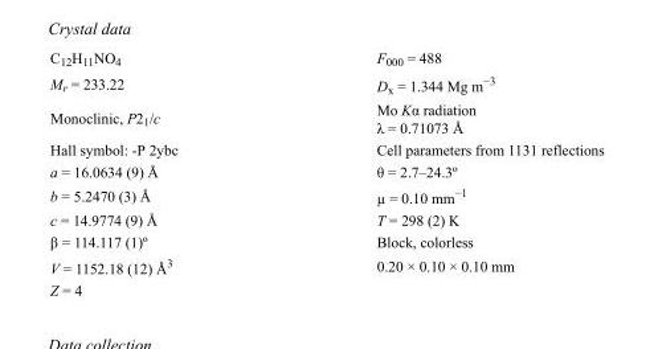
<table><tbody><tr><td>C<sub>12</sub>H<sub>11</sub>NO<sub>4</sub></td><td>F000 = 488</td></tr><tr><td>M<sub>r</sub> = 233.22</td><td>D<sub>x</sub> = 1.344 Mg m<sup>−3</sup></td></tr><tr><td>Monoclinic, P2<sub>1</sub>/c</td><td>Mo Kα radiation λ = 0.71073 Å</td></tr><tr><td>Hall symbol: -P 2ybc</td><td>Cell parameters from 1131 reflections</td></tr><tr><td>a = 16.0634 (9) Å</td><td>θ = 2.7–24.3º</td></tr><tr><td>b = 5.2470 (3) Å</td><td>µ = 0.10 mm<sup>−1</sup></td></tr><tr><td>c = 14.9774 (9) Å</td><td>T = 298 (2) K</td></tr><tr><td>β = 114.117 (1)º</td><td>Block, colorless</td></tr><tr><td>V = 1152.18 (12) Å<sup>3</sup></td><td>0.20 × 0.10 × 0.10 mm</td></tr><tr><td>Z = 4</td><td></td></tr></tbody></table>